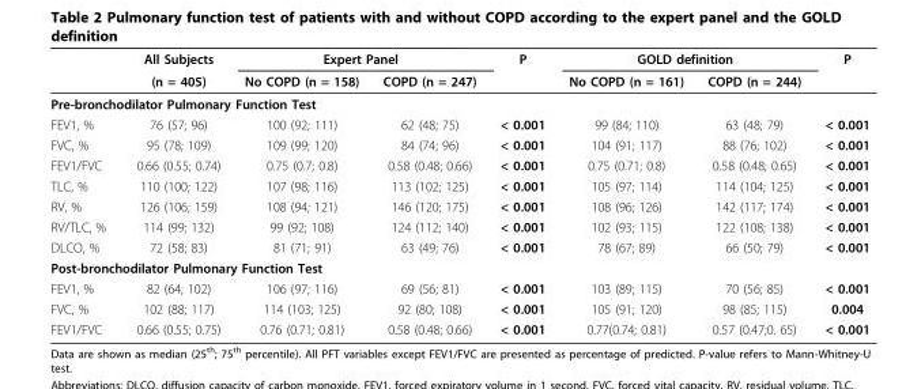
<table><thead><tr><td rowspan="2"></td><td rowspan="2">All Subjects (n = 405)</td><td colspan="2">Expert Panel</td><td rowspan="2">P</td><td colspan="2">GOLD definition</td><td rowspan="2">P</td></tr><tr><td>No COPD (n = 158)</td><td>COPD (n = 247)</td><td>No COPD (n = 161)</td><td>COPD (n = 244)</td></tr></thead><tbody><tr><td colspan="8">Pre-bronchodilator Pulmonary Function Test</td></tr><tr><td>FEV1, %</td><td>76 (57; 96)</td><td>100 (92; 111)</td><td>62 (48; 75)</td><td>&lt; 0.001</td><td>99 (84; 110)</td><td>63 (48; 79)</td><td>&lt; 0.001</td></tr><tr><td>FVC, %</td><td>95 (78; 109)</td><td>109 (99; 120)</td><td>84 (74; 96)</td><td>&lt; 0.001</td><td>104 (91; 117)</td><td>88 (76; 102)</td><td>&lt; 0.001</td></tr><tr><td>FEV1/FVC</td><td>0.66 (0.55; 0.74)</td><td>0.75 (0.7; 0.8)</td><td>0.58 (0.48; 0.66)</td><td>&lt; 0.001</td><td>0.75 (0.71; 0.8)</td><td>0.58 (0.48; 0.65)</td><td>&lt; 0.001</td></tr><tr><td>TLC, %</td><td>110 (100; 122)</td><td>107 (98; 116)</td><td>113 (102; 125)</td><td>&lt; 0.001</td><td>105 (97; 114)</td><td>114 (104; 125)</td><td>&lt; 0.001</td></tr><tr><td>RV, %</td><td>126 (106; 159)</td><td>108 (94; 121)</td><td>146 (120; 175)</td><td>&lt; 0.001</td><td>108 (96; 126)</td><td>142 (117; 174)</td><td>&lt; 0.001</td></tr><tr><td>RV/TLC, %</td><td>114 (99; 132)</td><td>99 (92; 108)</td><td>124 (112; 140)</td><td>&lt; 0.001</td><td>102 (93; 115)</td><td>122 (108; 138)</td><td>&lt; 0.001</td></tr><tr><td>DLCO, %</td><td>72 (58; 83)</td><td>81 (71; 91)</td><td>63 (49; 76)</td><td>&lt; 0.001</td><td>78 (67; 89)</td><td>66 (50; 79)</td><td>&lt; 0.001</td></tr><tr><td colspan="8">Post-bronchodilator Pulmonary Function Test</td></tr><tr><td>FEV1, %</td><td>82 (64; 102)</td><td>106 (97; 116)</td><td>69 (56; 81)</td><td>&lt; 0.001</td><td>103 (89; 115)</td><td>70 (56; 85)</td><td>&lt; 0.001</td></tr><tr><td>FVC, %</td><td>102 (88; 117)</td><td>114 (103; 125)</td><td>92 (80; 108)</td><td>&lt; 0.001</td><td>105 (91; 120)</td><td>98 (85; 115)</td><td>0.004</td></tr><tr><td>FEV1/FVC</td><td>0.66 (0.55; 0.75)</td><td>0.76 (0.71; 0.81)</td><td>0.58 (0.48; 0.66)</td><td>&lt; 0.001</td><td>0.77(0.74; 0.81)</td><td>0.57 (0.47;0. 65)</td><td>&lt; 0.001</td></tr></tbody></table>